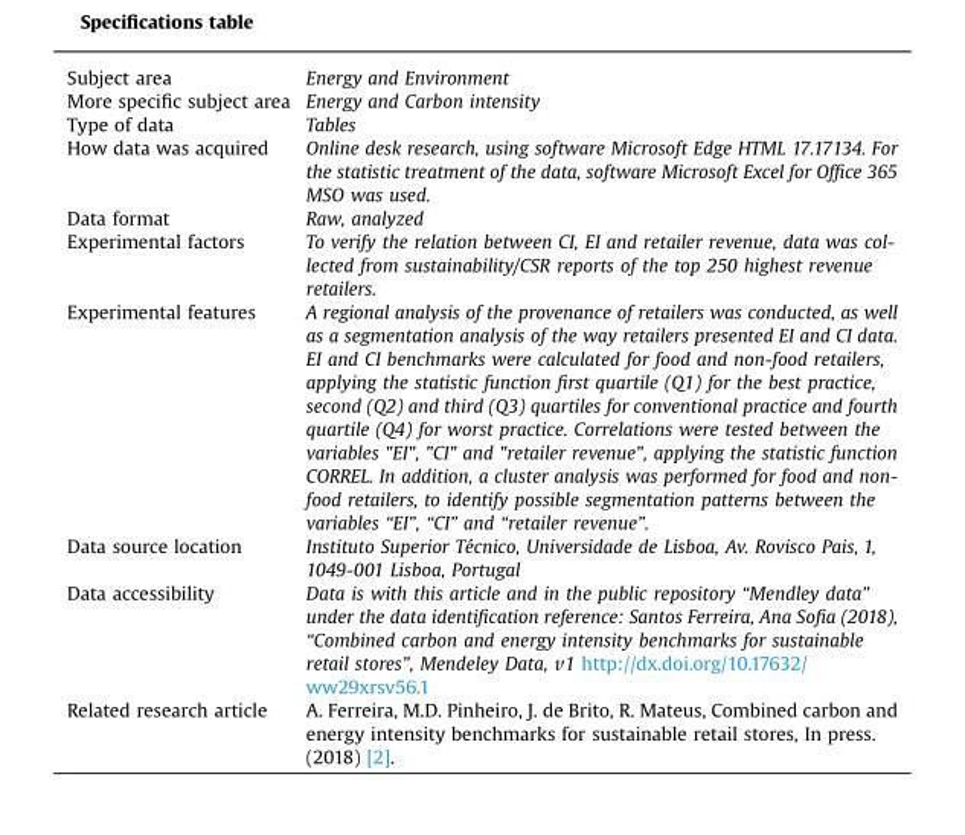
<table><tbody><tr><td>Subject area</td><td>Energy and Environment</td></tr><tr><td>More specific subject area</td><td>Energy and Carbon intensity</td></tr><tr><td>Type of data</td><td>Tables</td></tr><tr><td>How data was acquired</td><td>Online desk research, using software Microsoft Edge HTML 17.17134. For the statistic treatment of the data, software Microsoft Excel for Office 365 MSO was used.</td></tr><tr><td>Data format</td><td>Raw, analyzed</td></tr><tr><td>Experimental factors</td><td>To verify the relation between CI, EI and retailer revenue, data was col- lected from sustainability/CSR reports of the top 250 highest revenue retailers.</td></tr><tr><td>Experimental features</td><td>A regional analysis of the provenance of retailers was conducted, as well as a segmentation analysis of the way retailers presented EI and CI data. EI and CI benchmarks were calculated for food and non-food retailers, applying the statistic function first quartile (Q1) for the best practice, second (Q2) and third (Q3) quartiles for conventional practice and fourth quartile (Q4) for worst practice. Correlations were tested between the variables &quot;EI&quot;, &quot;CI&quot; and &quot;retailer revenue&quot;, applying the statistic function CORREL. In addition, a cluster analysis was performed for food and non- food retailers, to identify possible segmentation patterns between the variables “EI”, “CI” and “retailer revenue”.</td></tr><tr><td>Data source location</td><td>Instituto Superior Técnico, Universidade de Lisboa, Av. Rovisco Pais, 1, 1049-001 Lisboa, Portugal</td></tr><tr><td>Data accessibility</td><td>Data is with this article and in the public repository “Mendley data” under the data identification reference: Santos Ferreira, Ana Sofia (2018), “Combined carbon and energy intensity benchmarks for sustainable retail stores”, Mendeley Data, v1 http://dx.doi.org/10.17632/ ww29xrsv56.1</td></tr><tr><td>Related research article</td><td>A. Ferreira, M.D. Pinheiro, J. de Brito, R. Mateus, Combined carbon and energy intensity benchmarks for sustainable retail stores, In press. (2018) [2].</td></tr></tbody></table>